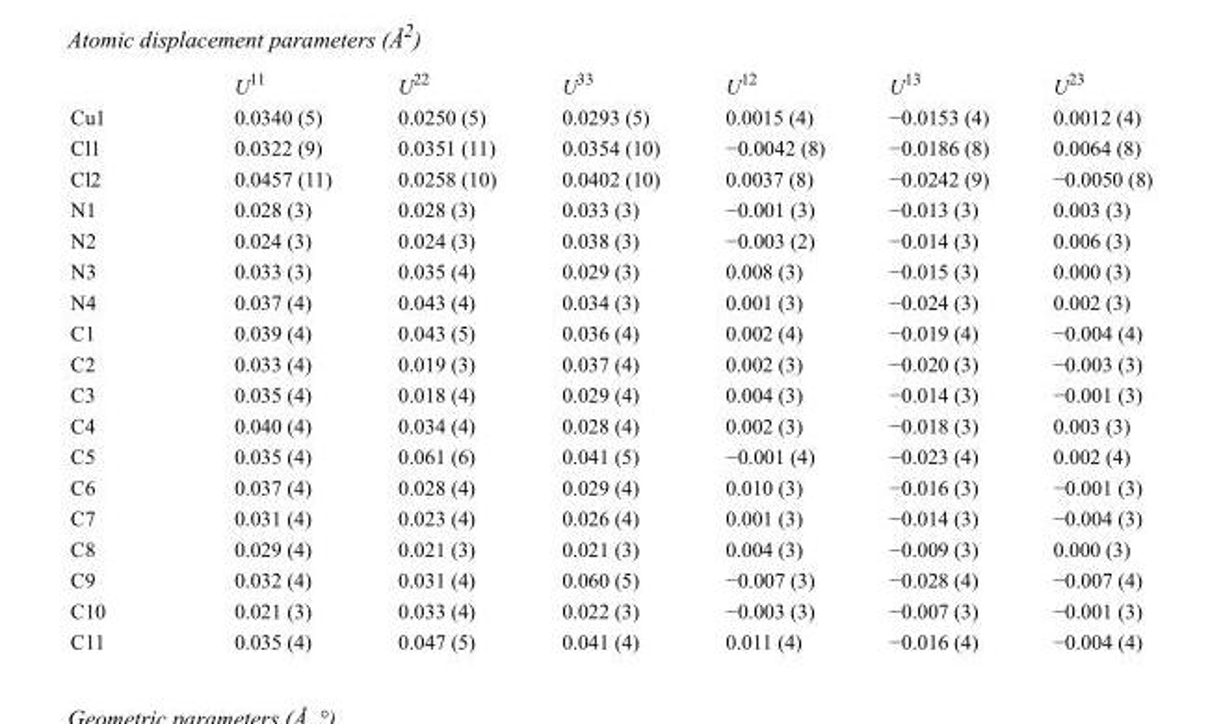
<table><thead><tr><td></td><td>U<sup>11</sup></td><td>U<sup>22</sup></td><td>U<sup>33</sup></td><td>U<sup>12</sup></td><td>U<sup>13</sup></td><td>U<sup>23</sup></td></tr></thead><tbody><tr><td>Cu1</td><td>0.0340 (5)</td><td>0.0250 (5)</td><td>0.0293 (5)</td><td>0.0015 (4)</td><td>−0.0153 (4)</td><td>0.0012 (4)</td></tr><tr><td>Cl1</td><td>0.0322 (9)</td><td>0.0351 (11)</td><td>0.0354 (10)</td><td>−0.0042 (8)</td><td>−0.0186 (8)</td><td>0.0064 (8)</td></tr><tr><td>Cl2</td><td>0.0457 (11)</td><td>0.0258 (10)</td><td>0.0402 (10)</td><td>0.0037 (8)</td><td>−0.0242 (9)</td><td>−0.0050 (8)</td></tr><tr><td>N1</td><td>0.028 (3)</td><td>0.028 (3)</td><td>0.033 (3)</td><td>−0.001 (3)</td><td>−0.013 (3)</td><td>0.003 (3)</td></tr><tr><td>N2</td><td>0.024 (3)</td><td>0.024 (3)</td><td>0.038 (3)</td><td>−0.003 (2)</td><td>−0.014 (3)</td><td>0.006 (3)</td></tr><tr><td>N3</td><td>0.033 (3)</td><td>0.035 (4)</td><td>0.029 (3)</td><td>0.008 (3)</td><td>−0.015 (3)</td><td>0.000 (3)</td></tr><tr><td>N4</td><td>0.037 (4)</td><td>0.043 (4)</td><td>0.034 (3)</td><td>0.001 (3)</td><td>−0.024 (3)</td><td>0.002 (3)</td></tr><tr><td>C1</td><td>0.039 (4)</td><td>0.043 (5)</td><td>0.036 (4)</td><td>0.002 (4)</td><td>−0.019 (4)</td><td>−0.004 (4)</td></tr><tr><td>C2</td><td>0.033 (4)</td><td>0.019 (3)</td><td>0.037 (4)</td><td>0.002 (3)</td><td>−0.020 (3)</td><td>−0.003 (3)</td></tr><tr><td>C3</td><td>0.035 (4)</td><td>0.018 (4)</td><td>0.029 (4)</td><td>0.004 (3)</td><td>−0.014 (3)</td><td>−0.001 (3)</td></tr><tr><td>C4</td><td>0.040 (4)</td><td>0.034 (4)</td><td>0.028 (4)</td><td>0.002 (3)</td><td>−0.018 (3)</td><td>0.003 (3)</td></tr><tr><td>C5</td><td>0.035 (4)</td><td>0.061 (6)</td><td>0.041 (5)</td><td>−0.001 (4)</td><td>−0.023 (4)</td><td>0.002 (4)</td></tr><tr><td>C6</td><td>0.037 (4)</td><td>0.028 (4)</td><td>0.029 (4)</td><td>0.010 (3)</td><td>−0.016 (3)</td><td>−0.001 (3)</td></tr><tr><td>C7</td><td>0.031 (4)</td><td>0.023 (4)</td><td>0.026 (4)</td><td>0.001 (3)</td><td>−0.014 (3)</td><td>−0.004 (3)</td></tr><tr><td>C8</td><td>0.029 (4)</td><td>0.021 (3)</td><td>0.021 (3)</td><td>0.004 (3)</td><td>−0.009 (3)</td><td>0.000 (3)</td></tr><tr><td>C9</td><td>0.032 (4)</td><td>0.031 (4)</td><td>0.060 (5)</td><td>−0.007 (3)</td><td>−0.028 (4)</td><td>−0.007 (4)</td></tr><tr><td>C10</td><td>0.021 (3)</td><td>0.033 (4)</td><td>0.022 (3)</td><td>−0.003 (3)</td><td>−0.007 (3)</td><td>−0.001 (3)</td></tr><tr><td>C11</td><td>0.035 (4)</td><td>0.047 (5)</td><td>0.041 (4)</td><td>0.011 (4)</td><td>−0.016 (4)</td><td>−0.004 (4)</td></tr></tbody></table>